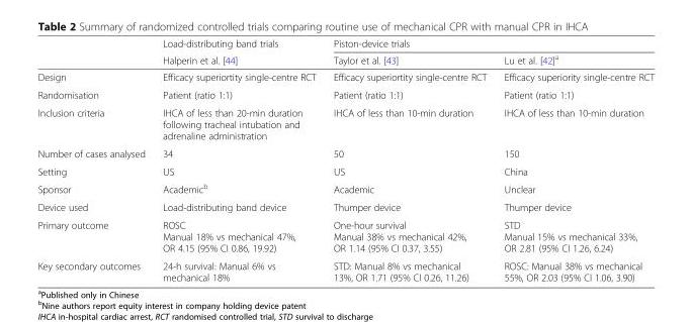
<table><thead><tr><td rowspan="2"></td><td rowspan="2">Load-distributing band trials Halperin et al. [44]</td><td colspan="2">Piston-device trials</td></tr><tr><td>Taylor et al. [43]</td><td>Lu et al. [42]<sup>a</sup></td></tr></thead><tbody><tr><td>Design</td><td>Efficacy superiortity single-centre RCT</td><td>Efficacy superiortity single-centre RCT</td><td>Efficacy superiority single-centre RCT</td></tr><tr><td>Randomisation</td><td>Patient (ratio 1:1)</td><td>Patient (ratio 1:1)</td><td>Patient (ratio 1:1)</td></tr><tr><td>Inclusion criteria</td><td>IHCA of less than 20-min duration following tracheal intubation and adrenaline administration</td><td>IHCA of less than 10-min duration</td><td>IHCA of less than 10-min duration</td></tr><tr><td>Number of cases analysed</td><td>34</td><td>50</td><td>150</td></tr><tr><td>Setting</td><td>US</td><td>US</td><td>China</td></tr><tr><td>Sponsor</td><td>Academic<sup>b</sup></td><td>Academic</td><td>Unclear</td></tr><tr><td>Device used</td><td>Load-distributing band device</td><td>Thumper device</td><td>Thumper device</td></tr><tr><td>Primary outcome</td><td>ROSC Manual 18% vs mechanical 47%, OR 4.15 (95% CI 0.86, 19.92)</td><td>One-hour survival Manual 38% vs mechanical 42%, OR 1.14 (95% CI 0.37, 3.55)</td><td>STD Manual 15% vs mechanical 33%, OR 2.81 (95% CI 1.26, 6.24)</td></tr><tr><td>Key secondary outcomes</td><td>24-h survival: Manual 6% vs mechanical 18%</td><td>STD: Manual 8% vs mechanical 13%, OR 1.71 (95% CI 0.26, 11.26)</td><td>ROSC: Manual 38% vs mechanical 55%, OR 2.03 (95% CI 1.06, 3.90)</td></tr></tbody></table>